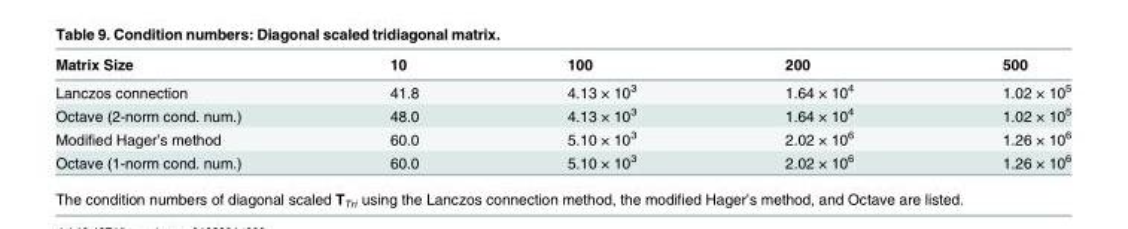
<table><thead><tr><td>Matrix Size</td><td>10</td><td>100</td><td>200</td><td>500</td></tr></thead><tbody><tr><td>Lanczos connection</td><td>41.8</td><td>4.13 × 10<sup>3</sup></td><td>1.64 × 10<sup>4</sup></td><td>1.02 × 10<sup>5</sup></td></tr><tr><td>Octave (2-norm cond. num.)</td><td>48.0</td><td>4.13 × 10<sup>3</sup></td><td>1.64 × 10<sup>4</sup></td><td>1.02 × 10<sup>5</sup></td></tr><tr><td>Modified Hager’s method</td><td>60.0</td><td>5.10 × 10<sup>3</sup></td><td>2.02 × 10<sup>6</sup></td><td>1.26 × 10<sup>6</sup></td></tr><tr><td>Octave (1-norm cond. num.)</td><td>60.0</td><td>5.10 × 10<sup>3</sup></td><td>2.02 × 10<sup>6</sup></td><td>1.26 × 10<sup>6</sup></td></tr></tbody></table>